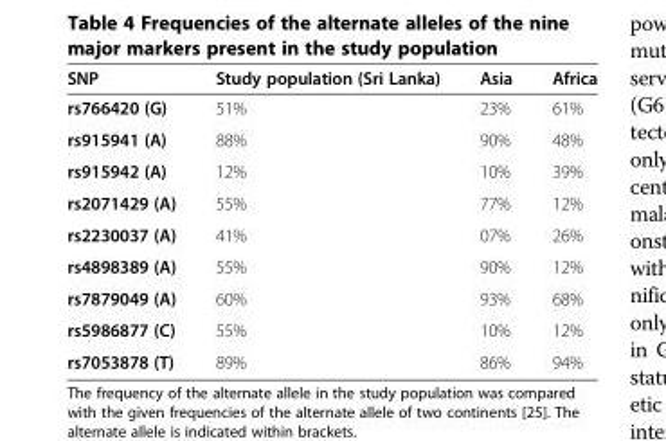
<table><thead><tr><td>SNP</td><td>Study population (Sri Lanka)</td><td>Asia</td><td>Africa</td></tr></thead><tbody><tr><td>rs766420 (G)</td><td>51%</td><td>23%</td><td>61%</td></tr><tr><td>rs915941 (A)</td><td>88%</td><td>90%</td><td>48%</td></tr><tr><td>rs915942 (A)</td><td>12%</td><td>10%</td><td>39%</td></tr><tr><td>rs2071429 (A)</td><td>55%</td><td>77%</td><td>12%</td></tr><tr><td>rs2230037 (A)</td><td>41%</td><td>07%</td><td>26%</td></tr><tr><td>rs4898389 (A)</td><td>55%</td><td>90%</td><td>12%</td></tr><tr><td>rs7879049 (A)</td><td>60%</td><td>93%</td><td>68%</td></tr><tr><td>rs5986877 (C)</td><td>55%</td><td>10%</td><td>12%</td></tr><tr><td>rs7053878 (T)</td><td>89%</td><td>86%</td><td>94%</td></tr></tbody></table>